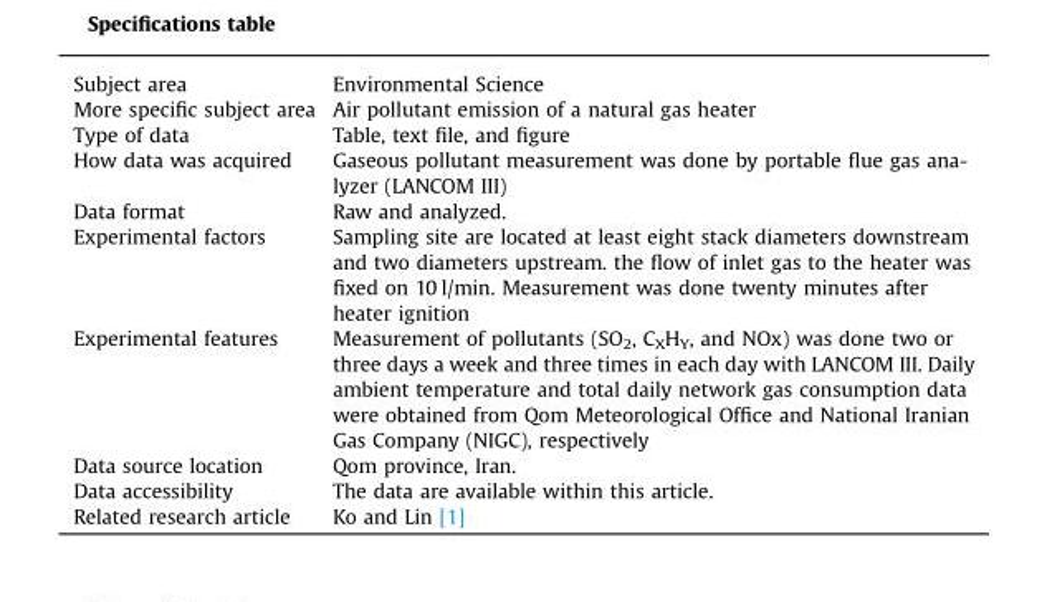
<table><tbody><tr><td>Subject area</td><td>Environmental Science</td></tr><tr><td>More specific subject area</td><td>Air pollutant emission of a natural gas heater</td></tr><tr><td>Type of data</td><td>Table, text file, and figure</td></tr><tr><td>How data was acquired</td><td>Gaseous pollutant measurement was done by portable flue gas ana- lyzer (LANCOM III)</td></tr><tr><td>Data format</td><td>Raw and analyzed.</td></tr><tr><td>Experimental factors</td><td>Sampling site are located at least eight stack diameters downstream and two diameters upstream. the flow of inlet gas to the heater was fixed on 10 l/min. Measurement was done twenty minutes after heater ignition</td></tr><tr><td>Experimental features</td><td>Measurement of pollutants (SO<sub>2</sub>, C<sub>X</sub>H<sub>Y</sub>, and NOx) was done two or three days a week and three times in each day with LANCOM III. Daily ambient temperature and total daily network gas consumption data were obtained from Qom Meteorological Office and National Iranian Gas Company (NIGC), respectively</td></tr><tr><td>Data source location</td><td>Qom province, Iran.</td></tr><tr><td>Data accessibility</td><td>The data are available within this article.</td></tr><tr><td>Related research article</td><td>Ko and Lin [1]</td></tr></tbody></table>